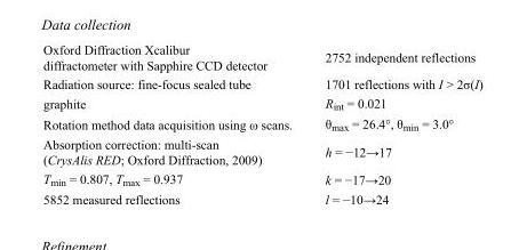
<table><tbody><tr><td>Oxford Diffraction Xcalibur diffractometer with Sapphire CCD detector</td><td>2752 independent reflections</td></tr><tr><td>Radiation source: fine-focus sealed tube</td><td>1701 reflections with I &gt; 2σ(I)</td></tr><tr><td>graphite</td><td>R<sub>int</sub> = 0.021</td></tr><tr><td>Rotation method data acquisition using ω scans.</td><td>θ<sub>max</sub> = 26.4°, θ<sub>min</sub> = 3.0°</td></tr><tr><td>Absorption correction: multi-scan (CrysAlis RED; Oxford Diffraction, 2009)</td><td>h = −12→17</td></tr><tr><td>T<sub>min</sub> = 0.807, T<sub>max</sub> = 0.937</td><td>k = −17→20</td></tr><tr><td>5852 measured reflections</td><td>l = −10→24</td></tr></tbody></table>